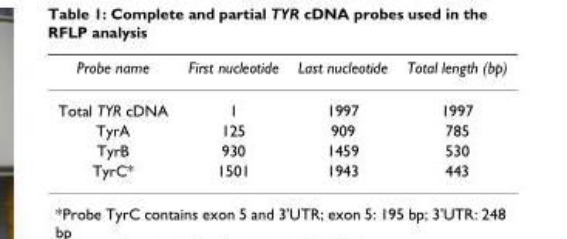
<table><thead><tr><td>Probe name</td><td>First nucleotide</td><td>Last nucleotide</td><td>Total length (bp)</td></tr></thead><tbody><tr><td>Total TYR cDNA</td><td>1</td><td>1997</td><td>1997</td></tr><tr><td>TyrA</td><td>125</td><td>909</td><td>785</td></tr><tr><td>TyrB</td><td>930</td><td>1459</td><td>530</td></tr><tr><td>TyrC*</td><td>1501</td><td>1943</td><td>443</td></tr></tbody></table>